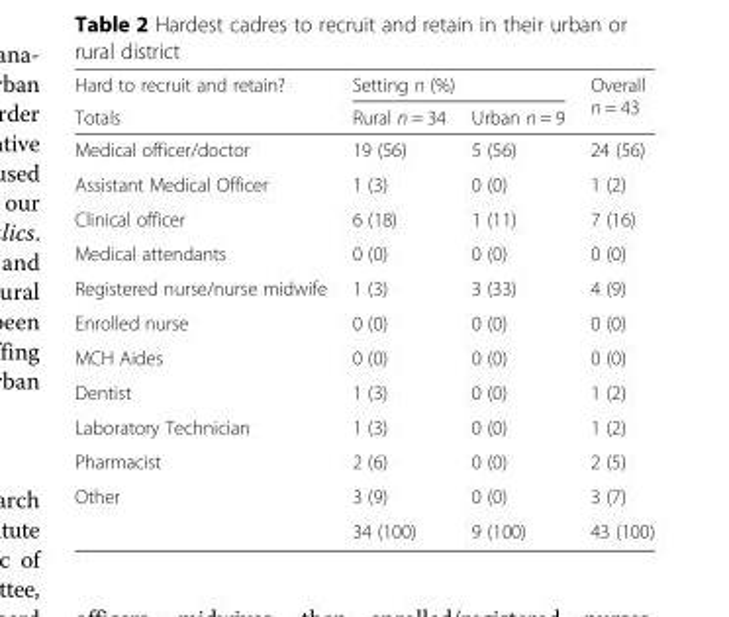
<table><thead><tr><td rowspan="2">Hard to recruit and retain? Totals</td><td colspan="2">Setting n (%)</td><td rowspan="2">Overall n = 43</td></tr><tr><td>Rural n = 34</td><td>Urban n = 9</td></tr></thead><tbody><tr><td>Medical officer/doctor</td><td>19 (56)</td><td>5 (56)</td><td>24 (56)</td></tr><tr><td>Assistant Medical Officer</td><td>1 (3)</td><td>0 (0)</td><td>1 (2)</td></tr><tr><td>Clinical officer</td><td>6 (18)</td><td>1 (11)</td><td>7 (16)</td></tr><tr><td>Medical attendants</td><td>0 (0)</td><td>0 (0)</td><td>0 (0)</td></tr><tr><td>Registered nurse/nurse midwife</td><td>1 (3)</td><td>3 (33)</td><td>4 (9)</td></tr><tr><td>Enrolled nurse</td><td>0 (0)</td><td>0 (0)</td><td>0 (0)</td></tr><tr><td>MCH Aides</td><td>0 (0)</td><td>0 (0)</td><td>0 (0)</td></tr><tr><td>Dentist</td><td>1 (3)</td><td>0 (0)</td><td>1 (2)</td></tr><tr><td>Laboratory Technician</td><td>1 (3)</td><td>0 (0)</td><td>1 (2)</td></tr><tr><td>Pharmacist</td><td>2 (6)</td><td>0 (0)</td><td>2 (5)</td></tr><tr><td rowspan="2">Other</td><td>3 (9)</td><td>0 (0)</td><td>3 (7)</td></tr><tr><td>34 (100)</td><td>9 (100)</td><td>43 (100)</td></tr></tbody></table>